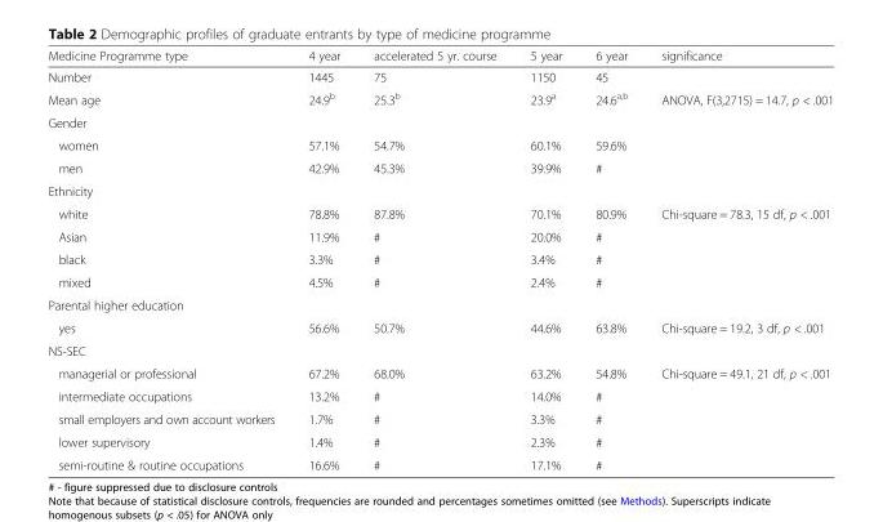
<table><thead><tr><td>Medicine Programme type</td><td>4 year</td><td>accelerated 5 yr. course</td><td>5 year</td><td>6 year</td><td>significance</td></tr></thead><tbody><tr><td>Number</td><td>1445</td><td>75</td><td>1150</td><td>45</td><td></td></tr><tr><td>Mean age</td><td>24.9<sup>b</sup></td><td>25.3<sup>b</sup></td><td>23.9<sup>a</sup></td><td>24.6<sup>a,b</sup></td><td>ANOVA, F(3,2715) = 14.7, p &lt; .001</td></tr><tr><td colspan="6">Gender</td></tr><tr><td>women</td><td>57.1%</td><td>54.7%</td><td>60.1%</td><td>59.6%</td><td></td></tr><tr><td>men</td><td>42.9%</td><td>45.3%</td><td>39.9%</td><td>#</td><td></td></tr><tr><td colspan="6">Ethnicity</td></tr><tr><td>white</td><td>78.8%</td><td>87.8%</td><td>70.1%</td><td>80.9%</td><td>Chi-square = 78.3, 15 df, p &lt; .001</td></tr><tr><td>Asian</td><td>11.9%</td><td>#</td><td>20.0%</td><td>#</td><td></td></tr><tr><td>black</td><td>3.3%</td><td>#</td><td>3.4%</td><td>#</td><td></td></tr><tr><td>mixed</td><td>4.5%</td><td>#</td><td>2.4%</td><td>#</td><td></td></tr><tr><td colspan="6">Parental higher education</td></tr><tr><td>yes</td><td>56.6%</td><td>50.7%</td><td>44.6%</td><td>63.8%</td><td>Chi-square = 19.2, 3 df, p &lt; .001</td></tr><tr><td colspan="6">NS-SEC</td></tr><tr><td>managerial or professional</td><td>67.2%</td><td>68.0%</td><td>63.2%</td><td>54.8%</td><td>Chi-square = 49.1, 21 df, p &lt; .001</td></tr><tr><td>intermediate occupations</td><td>13.2%</td><td>#</td><td>14.0%</td><td>#</td><td></td></tr><tr><td>small employers and own account workers</td><td>1.7%</td><td>#</td><td>3.3%</td><td>#</td><td></td></tr><tr><td>lower supervisory</td><td>1.4%</td><td>#</td><td>2.3%</td><td>#</td><td></td></tr><tr><td>semi-routine &amp; routine occupations</td><td>16.6%</td><td>#</td><td>17.1%</td><td>#</td><td></td></tr></tbody></table>